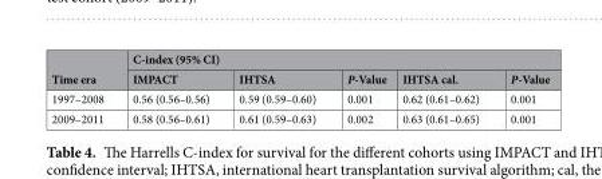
<table><thead><tr><td rowspan="2">Time era</td><td colspan="5">C-index (95% CI)</td></tr><tr><td>IMPACT</td><td>IHTSA</td><td>P-Value</td><td>IHTSA cal.</td><td>P-Value</td></tr></thead><tbody><tr><td>1997–2008</td><td>0.56 (0.56–0.56)</td><td>0.59 (0.59–0.60)</td><td>0.001</td><td>0.62 (0.61–0.62)</td><td>0.001</td></tr><tr><td>2009–2011</td><td>0.58 (0.56–0.61)</td><td>0.61 (0.59–0.63)</td><td>0.002</td><td>0.63 (0.61–0.65)</td><td>0.001</td></tr></tbody></table>